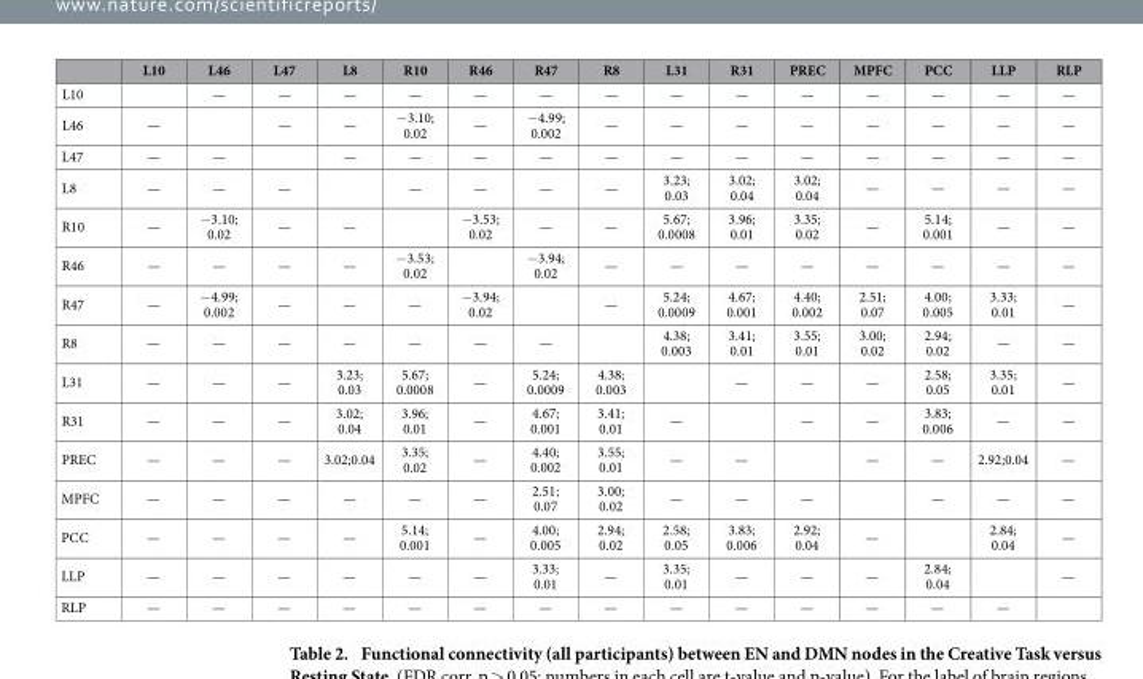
<table><thead><tr><td></td><td>L10</td><td>L46</td><td>L47</td><td>L8</td><td>R10</td><td>R46</td><td>R47</td><td>R8</td><td>L31</td><td>R31</td><td>PREC</td><td>MPFC</td><td>PCC</td><td>LLP</td><td>RLP</td></tr></thead><tbody><tr><td>L10</td><td></td><td>—</td><td>—</td><td>—</td><td>—</td><td>—</td><td>—</td><td>—</td><td>—</td><td>—</td><td>—</td><td>—</td><td>—</td><td>—</td><td>—</td></tr><tr><td>L46</td><td>—</td><td></td><td>—</td><td>—</td><td>− 3.10; 0.02</td><td>—</td><td>− 4.99; 0.002</td><td>—</td><td>—</td><td>—</td><td>—</td><td>—</td><td>—</td><td>—</td><td>—</td></tr><tr><td>L47</td><td>—</td><td>—</td><td></td><td>—</td><td>—</td><td>—</td><td>—</td><td>—</td><td>—</td><td>—</td><td>—</td><td>—</td><td>—</td><td>—</td><td>—</td></tr><tr><td>L8</td><td>—</td><td>—</td><td>—</td><td></td><td>—</td><td>—</td><td>—</td><td>—</td><td>3.23; 0.03</td><td>3.02; 0.04</td><td>3.02; 0.04</td><td>—</td><td>—</td><td>—</td><td>—</td></tr><tr><td>R10</td><td>—</td><td>− 3.10; 0.02</td><td>—</td><td>—</td><td></td><td>− 3.53; 0.02</td><td>—</td><td>—</td><td>5.67; 0.0008</td><td>3.96; 0.01</td><td>3.35; 0.02</td><td>—</td><td>5.14; 0.001</td><td>—</td><td>—</td></tr><tr><td>R46</td><td>—</td><td>—</td><td>—</td><td>—</td><td>− 3.53; 0.02</td><td></td><td>− 3.94; 0.02</td><td>—</td><td>—</td><td>—</td><td>—</td><td>—</td><td>—</td><td>—</td><td>—</td></tr><tr><td>R47</td><td>—</td><td>− 4.99; 0.002</td><td>—</td><td>—</td><td>—</td><td>− 3.94; 0.02</td><td></td><td>—</td><td>5.24; 0.0009</td><td>4.67; 0.001</td><td>4.40; 0.002</td><td>2.51; 0.07</td><td>4.00; 0.005</td><td>3.33; 0.01</td><td>—</td></tr><tr><td>R8</td><td>—</td><td>—</td><td>—</td><td>—</td><td>—</td><td>—</td><td>—</td><td></td><td>4.38; 0.003</td><td>3.41; 0.01</td><td>3.55; 0.01</td><td>3.00; 0.02</td><td>2.94; 0.02</td><td>—</td><td>—</td></tr><tr><td>L31</td><td>—</td><td>—</td><td>—</td><td>3.23; 0.03</td><td>5.67; 0.0008</td><td>—</td><td>5.24; 0.0009</td><td>4.38; 0.003</td><td></td><td>—</td><td>—</td><td>—</td><td>2.58; 0.05</td><td>3.35; 0.01</td><td>—</td></tr><tr><td>R31</td><td>—</td><td>—</td><td>—</td><td>3.02; 0.04</td><td>3.96; 0.01</td><td>—</td><td>4.67; 0.001</td><td>3.41; 0.01</td><td>—</td><td></td><td>—</td><td>—</td><td>3.83; 0.006</td><td>—</td><td>—</td></tr><tr><td>PREC</td><td>—</td><td>—</td><td>—</td><td>3.02;0.04</td><td>3.35; 0.02</td><td>—</td><td>4.40; 0.002</td><td>3.55; 0.01</td><td>—</td><td>—</td><td></td><td>—</td><td>—</td><td>2.92;0.04</td><td>—</td></tr><tr><td>MPFC</td><td>—</td><td>—</td><td>—</td><td>—</td><td>—</td><td>—</td><td>2.51; 0.07</td><td>3.00; 0.02</td><td>—</td><td>—</td><td>—</td><td></td><td>—</td><td>—</td><td>—</td></tr><tr><td>PCC</td><td>—</td><td>—</td><td>—</td><td>—</td><td>5.14; 0.001</td><td>—</td><td>4.00; 0.005</td><td>2.94; 0.02</td><td>2.58; 0.05</td><td>3.83; 0.006</td><td>2.92; 0.04</td><td>—</td><td></td><td>2.84; 0.04</td><td>—</td></tr><tr><td>LLP</td><td>—</td><td>—</td><td>—</td><td>—</td><td>—</td><td>—</td><td>3.33; 0.01</td><td>—</td><td>3.35; 0.01</td><td>—</td><td>—</td><td>—</td><td>2.84; 0.04</td><td></td><td>—</td></tr><tr><td>RLP</td><td>—</td><td>—</td><td>—</td><td>—</td><td>—</td><td>—</td><td>—</td><td>—</td><td>—</td><td>—</td><td>—</td><td>—</td><td>—</td><td>—</td><td></td></tr></tbody></table>